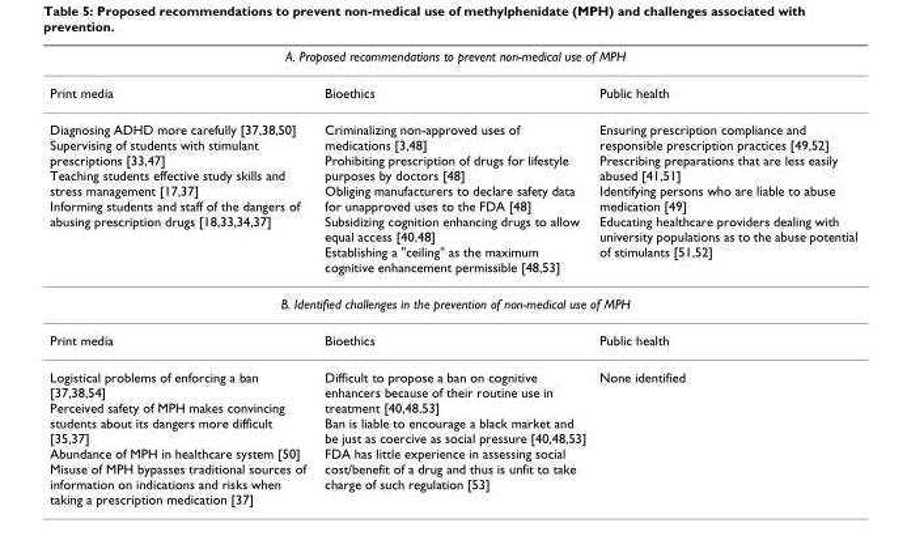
<table><thead><tr><td colspan="3">A. Proposed recommendations to prevent non-medical use of MPH</td></tr><tr><td>Print media</td><td>Bioethics</td><td>Public health</td></tr></thead><tbody><tr><td>Diagnosing ADHD more carefully [37,38,50] Supervising of students with stimulant prescriptions [33,47] Teaching students effective study skills and stress management [17,37] Informing students and staff of the dangers of abusing prescription drugs [18,33,34,37]</td><td>Criminalizing non-approved uses of medications [3,48] Prohibiting prescription of drugs for lifestyle purposes by doctors [48] Obliging manufacturers to declare safety data for unapproved uses to the FDA [48] Subsidizing cognition enhancing drugs to allow equal access [40,48] Establishing a &quot;ceiling&quot; as the maximum cognitive enhancement permissible [48,53]</td><td>Ensuring prescription compliance and responsible prescription practices [49,52] Prescribing preparations that are less easily abused [41,51] Identifying persons who are liable to abuse medication [49] Educating healthcare providers dealing with university populations as to the abuse potential of stimulants [51,52]</td></tr><tr><td colspan="3">B. Identified challenges in the prevention of non-medical use of MPH</td></tr><tr><td>Print media</td><td>Bioethics</td><td>Public health</td></tr><tr><td>Logistical problems of enforcing a ban [37,38,54] Perceived safety of MPH makes convincing students about its dangers more difficult [35,37] Abundance of MPH in healthcare system [50] Misuse of MPH bypasses traditional sources of information on indications and risks when taking a prescription medication [37]</td><td>Difficult to propose a ban on cognitive enhancers because of their routine use in treatment [40,48,53] Ban is liable to encourage a black market and be just as coercive as social pressure [40,48,53] FDA has little experience in assessing social cost/benefit of a drug and thus is unfit to take charge of such regulation [53]</td><td>None identified</td></tr></tbody></table>